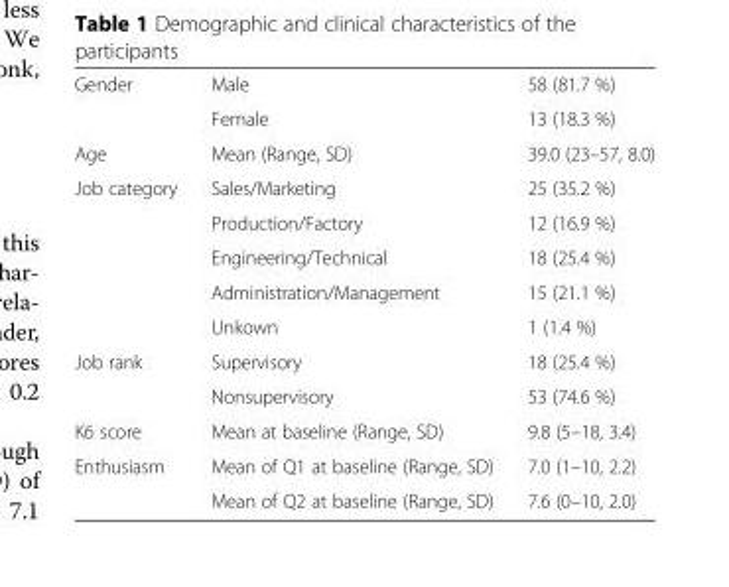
<table><tbody><tr><td rowspan="2">Gender</td><td>Male</td><td>58 (81.7 %)</td></tr><tr><td>Female</td><td>13 (18.3 %)</td></tr><tr><td>Age</td><td>Mean (Range, SD)</td><td>39.0 (23–57, 8.0)</td></tr><tr><td rowspan="5">Job category</td><td>Sales/Marketing</td><td>25 (35.2 %)</td></tr><tr><td>Production/Factory</td><td>12 (16.9 %)</td></tr><tr><td>Engineering/Technical</td><td>18 (25.4 %)</td></tr><tr><td>Administration/Management</td><td>15 (21.1 %)</td></tr><tr><td>Unkown</td><td>1 (1.4 %)</td></tr><tr><td rowspan="2">Job rank</td><td>Supervisory</td><td>18 (25.4 %)</td></tr><tr><td>Nonsupervisory</td><td>53 (74.6 %)</td></tr><tr><td>K6 score</td><td>Mean at baseline (Range, SD)</td><td>9.8 (5–18, 3.4)</td></tr><tr><td rowspan="2">Enthusiasm</td><td>Mean of Q1 at baseline (Range, SD)</td><td>7.0 (1–10, 2.2)</td></tr><tr><td>Mean of Q2 at baseline (Range, SD)</td><td>7.6 (0–10, 2.0)</td></tr></tbody></table>